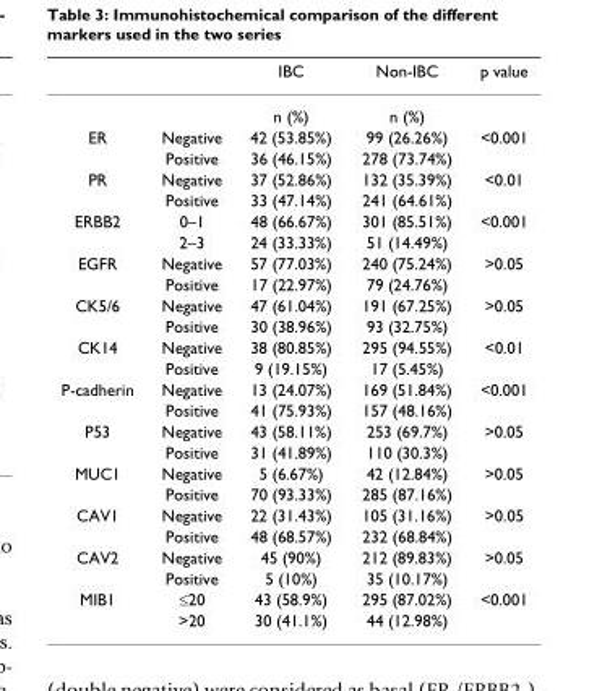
<table><thead><tr><td></td><td></td><td>IBC</td><td>Non-IBC</td><td>p value</td></tr></thead><tbody><tr><td></td><td></td><td>n (%)</td><td>n (%)</td><td></td></tr><tr><td rowspan="2">ER</td><td>Negative</td><td>42 (53.85%)</td><td>99 (26.26%)</td><td>&lt;0.001</td></tr><tr><td>Positive</td><td>36 (46.15%)</td><td>278 (73.74%)</td><td></td></tr><tr><td rowspan="2">PR</td><td>Negative</td><td>37 (52.86%)</td><td>132 (35.39%)</td><td>&lt;0.01</td></tr><tr><td>Positive</td><td>33 (47.14%)</td><td>241 (64.61%)</td><td></td></tr><tr><td rowspan="2">ERBB2</td><td>0–1</td><td>48 (66.67%)</td><td>301 (85.51%)</td><td>&lt;0.001</td></tr><tr><td>2–3</td><td>24 (33.33%)</td><td>51 (14.49%)</td><td></td></tr><tr><td rowspan="2">EGFR</td><td>Negative</td><td>57 (77.03%)</td><td>240 (75.24%)</td><td>&gt;0.05</td></tr><tr><td>Positive</td><td>17 (22.97%)</td><td>79 (24.76%)</td><td></td></tr><tr><td rowspan="2">CK5/6</td><td>Negative</td><td>47 (61.04%)</td><td>191 (67.25%)</td><td>&gt;0.05</td></tr><tr><td>Positive</td><td>30 (38.96%)</td><td>93 (32.75%)</td><td></td></tr><tr><td rowspan="2">CK14</td><td>Negative</td><td>38 (80.85%)</td><td>295 (94.55%)</td><td>&lt;0.01</td></tr><tr><td>Positive</td><td>9 (19.15%)</td><td>17 (5.45%)</td><td></td></tr><tr><td rowspan="2">P-cadherin</td><td>Negative</td><td>13 (24.07%)</td><td>169 (51.84%)</td><td>&lt;0.001</td></tr><tr><td>Positive</td><td>41 (75.93%)</td><td>157 (48.16%)</td><td></td></tr><tr><td rowspan="2">P53</td><td>Negative</td><td>43 (58.11%)</td><td>253 (69.7%)</td><td>&gt;0.05</td></tr><tr><td>Positive</td><td>31 (41.89%)</td><td>110 (30.3%)</td><td></td></tr><tr><td rowspan="2">MUC1</td><td>Negative</td><td>5 (6.67%)</td><td>42 (12.84%)</td><td>&gt;0.05</td></tr><tr><td>Positive</td><td>70 (93.33%)</td><td>285 (87.16%)</td><td></td></tr><tr><td rowspan="2">CAV1</td><td>Negative</td><td>22 (31.43%)</td><td>105 (31.16%)</td><td>&gt;0.05</td></tr><tr><td>Positive</td><td>48 (68.57%)</td><td>232 (68.84%)</td><td></td></tr><tr><td rowspan="2">CAV2</td><td>Negative</td><td>45 (90%)</td><td>212 (89.83%)</td><td>&gt;0.05</td></tr><tr><td>Positive</td><td>5 (10%)</td><td>35 (10.17%)</td><td></td></tr><tr><td rowspan="2">MIB1</td><td>≤20</td><td>43 (58.9%)</td><td>295 (87.02%)</td><td>&lt;0.001</td></tr><tr><td>&gt;20</td><td>30 (41.1%)</td><td>44 (12.98%)</td><td></td></tr></tbody></table>